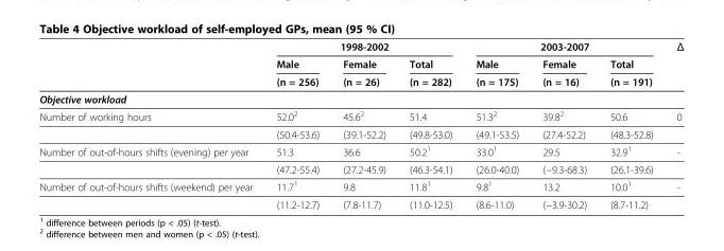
<table><thead><tr><td rowspan="3"></td><td colspan="3">1998-2002</td><td colspan="3">2003-2007</td><td rowspan="3">Δ</td></tr><tr><td rowspan="2">Male (n = 256)</td><td rowspan="2">Female (n = 26)</td><td rowspan="2">Total (n = 282)</td><td rowspan="2">Male (n = 175)</td><td rowspan="2">Female (n = 16)</td><td rowspan="2">Total (n = 191)</td></tr><tr></tr></thead><tbody><tr><td colspan="8">Objective workload</td></tr><tr><td rowspan="2">Number of working hours</td><td>52.0<sup>2</sup></td><td>45.6<sup>2</sup></td><td>51.4</td><td>51.3<sup>2</sup></td><td>39.8<sup>2</sup></td><td>50.6</td><td>0</td></tr><tr><td>(50.4-53.6)</td><td>(39.1-52.2)</td><td>(49.8-53.0)</td><td>(49.1-53.5)</td><td>(27.4-52.2)</td><td>(48.3-52.8)</td><td></td></tr><tr><td rowspan="2">Number of out-of-hours shifts (evening) per year</td><td>51.3</td><td>36.6</td><td>50.2<sup>1</sup></td><td>33.0<sup>1</sup></td><td>29.5</td><td>32.9<sup>1</sup></td><td>-</td></tr><tr><td>(47.2-55.4)</td><td>(27.2-45.9)</td><td>(46.3-54.1)</td><td>(26.0-40.0)</td><td>(−9.3-68.3)</td><td>(26.1-39.6)</td><td></td></tr><tr><td rowspan="2">Number of out-of-hours shifts (weekend) per year</td><td>11.7<sup>1</sup></td><td>9.8</td><td>11.8<sup>1</sup></td><td>9.8<sup>1</sup></td><td>13.2</td><td>10.0<sup>1</sup></td><td>-</td></tr><tr><td>(11.2-12.7)</td><td>(7.8-11.7)</td><td>(11.0-12.5)</td><td>(8.6-11.0)</td><td>(−3.9-30.2)</td><td>(8.7-11.2)</td><td></td></tr></tbody></table>